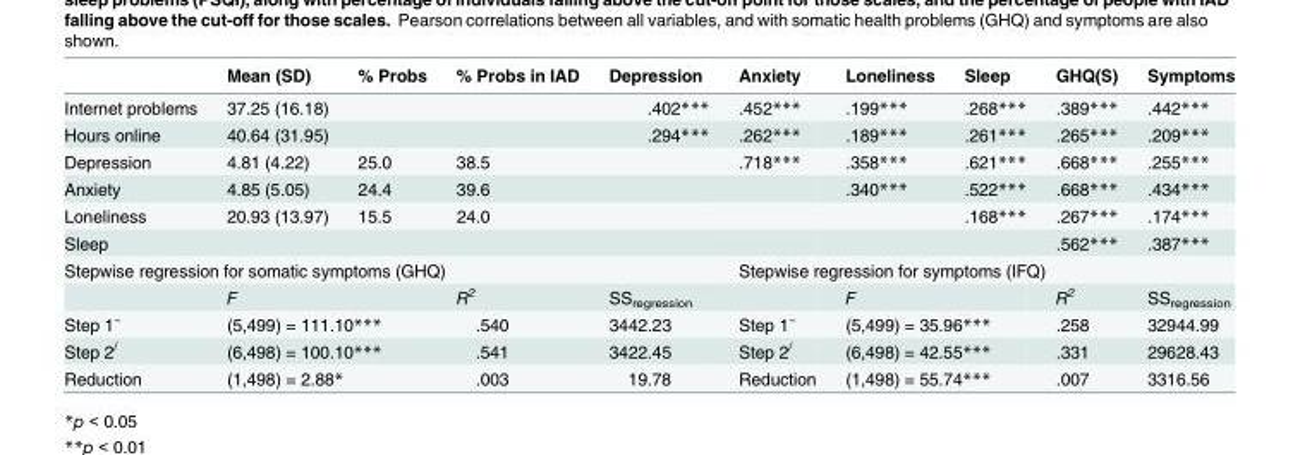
<table><thead><tr><td></td><td>Mean (SD)</td><td>% Probs</td><td>% Probs in IAD</td><td>Depression</td><td>Anxiety</td><td>Loneliness</td><td>Sleep</td><td>GHQ(S)</td><td>Symptoms</td></tr></thead><tbody><tr><td>Internet problems</td><td>37.25 (16.18)</td><td></td><td></td><td>.402***</td><td>.452***</td><td>.199***</td><td>.268***</td><td>.389***</td><td>.442***</td></tr><tr><td>Hours online</td><td>40.64 (31.95)</td><td></td><td></td><td>.294***</td><td>.262***</td><td>.189***</td><td>.261***</td><td>.265***</td><td>.209***</td></tr><tr><td>Depression</td><td>4.81 (4.22)</td><td>25.0</td><td>38.5</td><td></td><td>.718***</td><td>.358***</td><td>.621***</td><td>.668***</td><td>.255***</td></tr><tr><td>Anxiety</td><td>4.85 (5.05)</td><td>24.4</td><td>39.6</td><td></td><td></td><td>.340***</td><td>.522***</td><td>.668***</td><td>.434***</td></tr><tr><td>Loneliness</td><td>20.93 (13.97)</td><td>15.5</td><td>24.0</td><td></td><td></td><td></td><td>.168***</td><td>.267***</td><td>.174***</td></tr><tr><td>Sleep</td><td></td><td></td><td></td><td></td><td></td><td></td><td></td><td>.562***</td><td>.387***</td></tr><tr><td colspan="5">Stepwise regression for somatic symptoms (GHQ)</td><td colspan="5">Stepwise regression for symptoms (IFQ)</td></tr><tr><td></td><td colspan="2">F</td><td>R<sup>2</sup></td><td>SS<sub>regression</sub></td><td></td><td colspan="2">F</td><td>R<sup>2</sup></td><td>SS<sub>regression</sub></td></tr><tr><td>Step 1<sup>~</sup></td><td colspan="2">(5,499) = 111.10***</td><td>.540</td><td>3442.23</td><td>Step 1<sup>~</sup></td><td colspan="2">(5,499) = 35.96***</td><td>.258</td><td>32944.99</td></tr><tr><td>Step 2<sup>/</sup></td><td colspan="2">(6,498) = 100.10***</td><td>.541</td><td>3422.45</td><td>Step 2<sup>/</sup></td><td colspan="2">(6,498) = 42.55***</td><td>.331</td><td>29628.43</td></tr><tr><td>Reduction</td><td colspan="2">(1,498) = 2.88*</td><td>.003</td><td>19.78</td><td>Reduction</td><td colspan="2">(1,498) = 55.74***</td><td>.007</td><td>3316.56</td></tr></tbody></table>